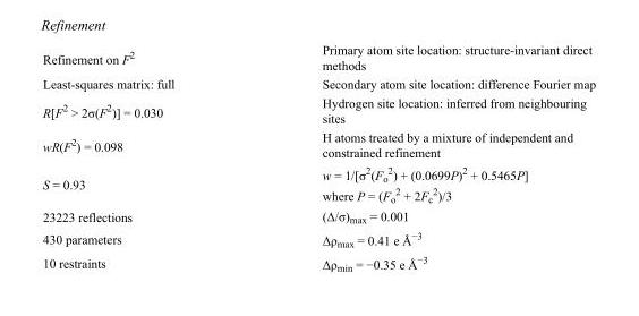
<table><tbody><tr><td>Refinement on F<sup>2</sup></td><td>Primary atom site location: structure-invariant direct methods</td></tr><tr><td>Least-squares matrix: full</td><td>Secondary atom site location: difference Fourier map</td></tr><tr><td>R[F<sup>2</sup> &gt; 2σ(F<sup>2</sup>)] = 0.030</td><td>Hydrogen site location: inferred from neighbouring sites</td></tr><tr><td>wR(F<sup>2</sup>) = 0.098</td><td>H atoms treated by a mixture of independent and constrained refinement</td></tr><tr><td>S = 0.93</td><td>w = 1/[σ<sup>2</sup>(F<sub>o</sub> <sup>2</sup>) + (0.0699P)<sup>2</sup> + 0.5465P] where P = (F<sub>o</sub> <sup>2</sup> + 2F<sub>c</sub> <sup>2</sup>)/3</td></tr><tr><td>23223 reflections</td><td>(Δ/σ)<sub>max</sub> = 0.001</td></tr><tr><td>430 parameters</td><td>Δρ<sub>max</sub> = 0.41 e Å<sup>−3</sup></td></tr><tr><td>10 restraints</td><td>Δρ<sub>min</sub> = −0.35 e Å<sup>−3</sup></td></tr></tbody></table>